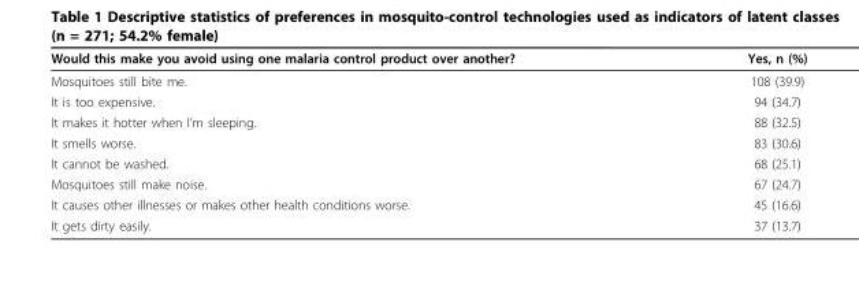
<table><thead><tr><td>Would this make you avoid using one malaria control product over another?</td><td>Yes, n (%)</td></tr></thead><tbody><tr><td>Mosquitoes still bite me.</td><td>108 (39.9)</td></tr><tr><td>It is too expensive.</td><td>94 (34.7)</td></tr><tr><td>It makes it hotter when I’m sleeping.</td><td>88 (32.5)</td></tr><tr><td>It smells worse.</td><td>83 (30.6)</td></tr><tr><td>It cannot be washed.</td><td>68 (25.1)</td></tr><tr><td>Mosquitoes still make noise.</td><td>67 (24.7)</td></tr><tr><td>It causes other illnesses or makes other health conditions worse.</td><td>45 (16.6)</td></tr><tr><td>It gets dirty easily.</td><td>37 (13.7)</td></tr></tbody></table>